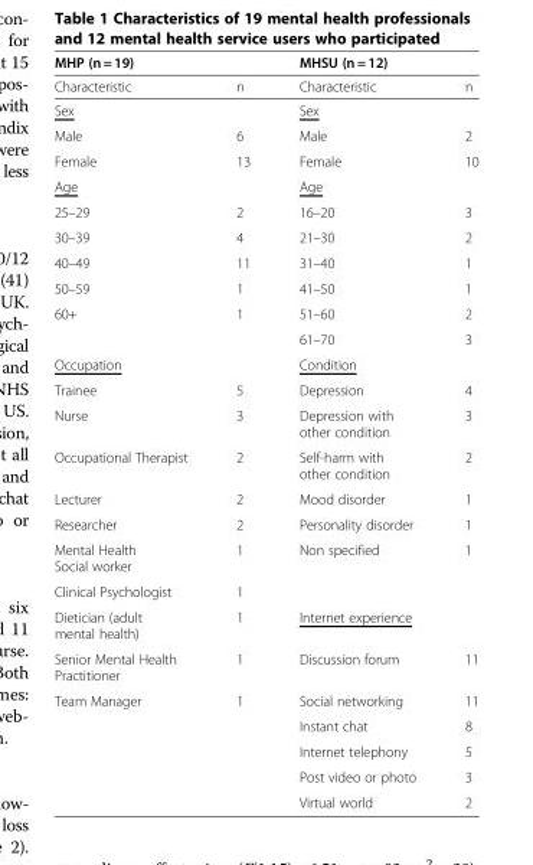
<table><thead><tr><td colspan="2">MHP (n = 19)</td><td colspan="2">MHSU (n = 12)</td></tr><tr><td>Characteristic</td><td>n</td><td>Characteristic</td><td>n</td></tr></thead><tbody><tr><td>Sex</td><td></td><td>Sex</td><td></td></tr><tr><td>Male</td><td>6</td><td>Male</td><td>2</td></tr><tr><td>Female</td><td>13</td><td>Female</td><td>10</td></tr><tr><td>Age</td><td></td><td>Age</td><td></td></tr><tr><td>25–29</td><td>2</td><td>16–20</td><td>3</td></tr><tr><td>30–39</td><td>4</td><td>21–30</td><td>2</td></tr><tr><td>40–49</td><td>11</td><td>31–40</td><td>1</td></tr><tr><td>50–59</td><td>1</td><td>41–50</td><td>1</td></tr><tr><td rowspan="2">60+</td><td>1</td><td>51–60</td><td>2</td></tr><tr><td></td><td>61–70</td><td>3</td></tr><tr><td>Occupation</td><td></td><td>Condition</td><td></td></tr><tr><td>Trainee</td><td>5</td><td>Depression</td><td>4</td></tr><tr><td>Nurse</td><td>3</td><td>Depression with other condition</td><td>3</td></tr><tr><td>Occupational Therapist</td><td>2</td><td>Self-harm with other condition</td><td>2</td></tr><tr><td>Lecturer</td><td>2</td><td>Mood disorder</td><td>1</td></tr><tr><td>Researcher</td><td>2</td><td>Personality disorder</td><td>1</td></tr><tr><td>Mental Health Social worker</td><td>1</td><td>Non specified</td><td>1</td></tr><tr><td>Clinical Psychologist</td><td>1</td><td></td><td></td></tr><tr><td>Dietician (adult mental health)</td><td>1</td><td>Internet experience</td><td></td></tr><tr><td>Senior Mental Health Practitioner</td><td>1</td><td>Discussion forum</td><td>11</td></tr><tr><td rowspan="5">Team Manager</td><td>1</td><td>Social networking</td><td>11</td></tr><tr><td></td><td>Instant chat</td><td>8</td></tr><tr><td></td><td>Internet telephony</td><td>5</td></tr><tr><td></td><td>Post video or photo</td><td>3</td></tr><tr><td></td><td>Virtual world</td><td>2</td></tr></tbody></table>